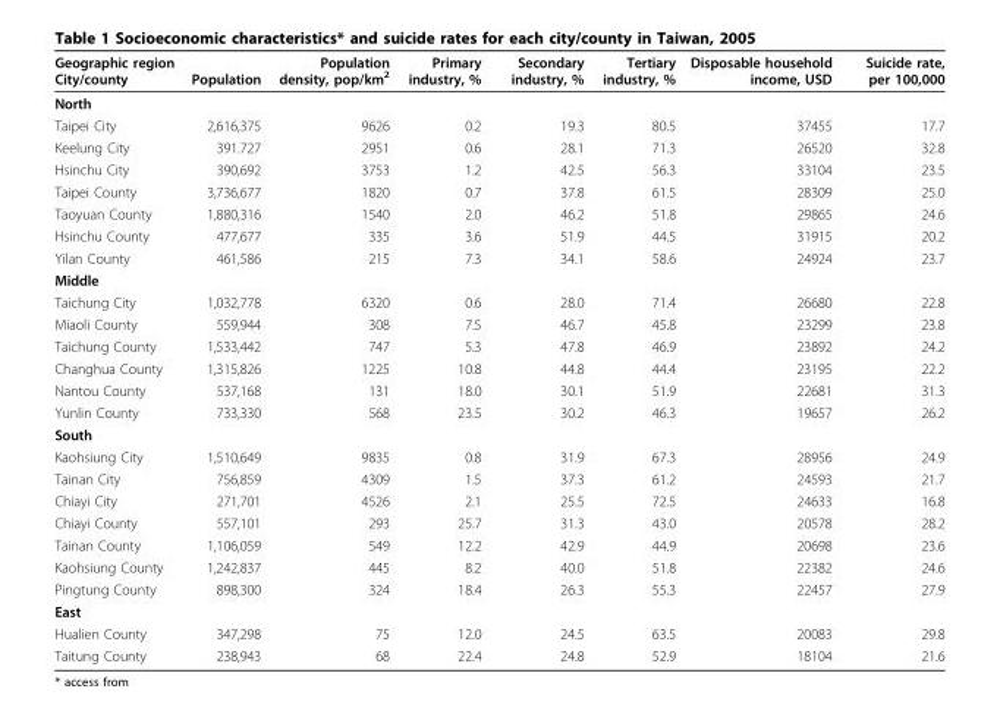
<table><thead><tr><td>Geographic region City/county</td><td>Population</td><td>Population density, pop/km<sup>2</sup></td><td>Primary industry, %</td><td>Secondary industry, %</td><td>Tertiary industry, %</td><td>Disposable household income, USD</td><td>Suicide rate, per 100,000</td></tr></thead><tbody><tr><td colspan="8">North</td></tr><tr><td>Taipei City</td><td>2,616,375</td><td>9626</td><td>0.2</td><td>19.3</td><td>80.5</td><td>37455</td><td>17.7</td></tr><tr><td>Keelung City</td><td>391.727</td><td>2951</td><td>0.6</td><td>28.1</td><td>71.3</td><td>26520</td><td>32.8</td></tr><tr><td>Hsinchu City</td><td>390,692</td><td>3753</td><td>1.2</td><td>42.5</td><td>56.3</td><td>33104</td><td>23.5</td></tr><tr><td>Taipei County</td><td>3,736,677</td><td>1820</td><td>0.7</td><td>37.8</td><td>61.5</td><td>28309</td><td>25.0</td></tr><tr><td>Taoyuan County</td><td>1,880,316</td><td>1540</td><td>2.0</td><td>46.2</td><td>51.8</td><td>29865</td><td>24.6</td></tr><tr><td>Hsinchu County</td><td>477,677</td><td>335</td><td>3.6</td><td>51.9</td><td>44.5</td><td>31915</td><td>20.2</td></tr><tr><td>Yilan County</td><td>461,586</td><td>215</td><td>7.3</td><td>34.1</td><td>58.6</td><td>24924</td><td>23.7</td></tr><tr><td colspan="8">Middle</td></tr><tr><td>Taichung City</td><td>1,032,778</td><td>6320</td><td>0.6</td><td>28.0</td><td>71.4</td><td>26680</td><td>22.8</td></tr><tr><td>Miaoli County</td><td>559,944</td><td>308</td><td>7.5</td><td>46.7</td><td>45.8</td><td>23299</td><td>23.8</td></tr><tr><td>Taichung County</td><td>1,533,442</td><td>747</td><td>5.3</td><td>47.8</td><td>46.9</td><td>23892</td><td>24.2</td></tr><tr><td>Changhua County</td><td>1,315,826</td><td>1225</td><td>10.8</td><td>44.8</td><td>44.4</td><td>23195</td><td>22.2</td></tr><tr><td>Nantou County</td><td>537,168</td><td>131</td><td>18.0</td><td>30.1</td><td>51.9</td><td>22681</td><td>31.3</td></tr><tr><td>Yunlin County</td><td>733,330</td><td>568</td><td>23.5</td><td>30.2</td><td>46.3</td><td>19657</td><td>26.2</td></tr><tr><td colspan="8">South</td></tr><tr><td>Kaohsiung City</td><td>1,510,649</td><td>9835</td><td>0.8</td><td>31.9</td><td>67.3</td><td>28956</td><td>24.9</td></tr><tr><td>Tainan City</td><td>756,859</td><td>4309</td><td>1.5</td><td>37.3</td><td>61.2</td><td>24593</td><td>21.7</td></tr><tr><td>Chiayi City</td><td>271,701</td><td>4526</td><td>2.1</td><td>25.5</td><td>72.5</td><td>24633</td><td>16.8</td></tr><tr><td>Chiayi County</td><td>557,101</td><td>293</td><td>25.7</td><td>31.3</td><td>43.0</td><td>20578</td><td>28.2</td></tr><tr><td>Tainan County</td><td>1,106,059</td><td>549</td><td>12.2</td><td>42.9</td><td>44.9</td><td>20698</td><td>23.6</td></tr><tr><td>Kaohsiung County</td><td>1,242,837</td><td>445</td><td>8.2</td><td>40.0</td><td>51.8</td><td>22382</td><td>24.6</td></tr><tr><td>Pingtung County</td><td>898,300</td><td>324</td><td>18.4</td><td>26.3</td><td>55.3</td><td>22457</td><td>27.9</td></tr><tr><td colspan="8">East</td></tr><tr><td>Hualien County</td><td>347,298</td><td>75</td><td>12.0</td><td>24.5</td><td>63.5</td><td>20083</td><td>29.8</td></tr><tr><td>Taitung County</td><td>238,943</td><td>68</td><td>22.4</td><td>24.8</td><td>52.9</td><td>18104</td><td>21.6</td></tr></tbody></table>